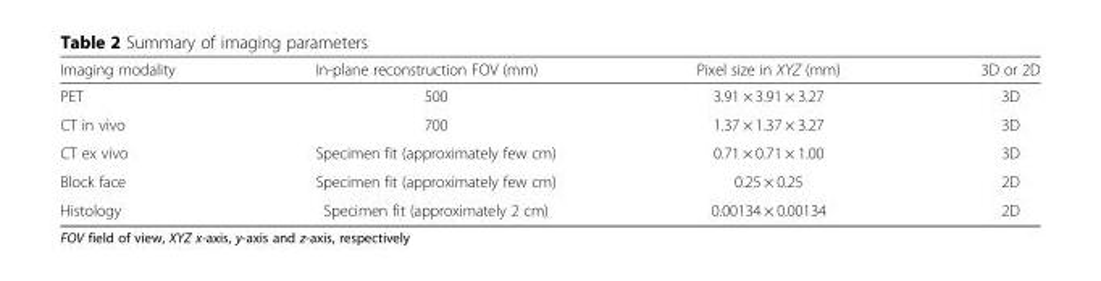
<table><thead><tr><td>Imaging modality</td><td>In-plane reconstruction FOV (mm)</td><td>Pixel size in XYZ (mm)</td><td>3D or 2D</td></tr></thead><tbody><tr><td>PET</td><td>500</td><td>3.91 × 3.91 × 3.27</td><td>3D</td></tr><tr><td>CT in vivo</td><td>700</td><td>1.37 × 1.37 × 3.27</td><td>3D</td></tr><tr><td>CT ex vivo</td><td>Specimen fit (approximately few cm)</td><td>0.71 × 0.71 × 1.00</td><td>3D</td></tr><tr><td>Block face</td><td>Specimen fit (approximately few cm)</td><td>0.25 × 0.25</td><td>2D</td></tr><tr><td>Histology</td><td>Specimen fit (approximately 2 cm)</td><td>0.00134 × 0.00134</td><td>2D</td></tr></tbody></table>